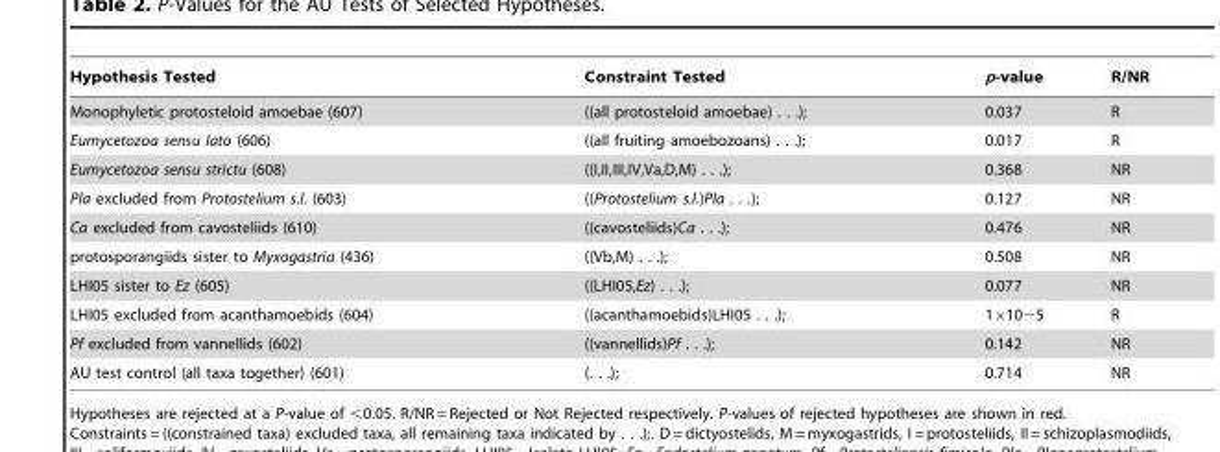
<table><thead><tr><td>Hypothesis Tested</td><td>Constraint Tested</td><td>p-value</td><td>R/NR</td></tr></thead><tbody><tr><td>Monophyletic protosteloid amoebae (607)</td><td>((all protosteloid amoebae) . . .);</td><td>0.037</td><td>R</td></tr><tr><td>Eumycetozoa sensu lato (606)</td><td>((all fruiting amoebozoans) . . .);</td><td>0.017</td><td>R</td></tr><tr><td>Eumycetozoa sensu strictu (608)</td><td>((I,II,III,IV,Va,D,M) . . .);</td><td>0.368</td><td>NR</td></tr><tr><td>Pla excluded from Protostelium s.l. (603)</td><td>((Protostelium s.l.)Pla . . .);</td><td>0.127</td><td>NR</td></tr><tr><td>Ca excluded from cavosteliids (610)</td><td>((cavosteliids)Ca . . .);</td><td>0.476</td><td>NR</td></tr><tr><td>protosporangiids sister to Myxogastria (436)</td><td>((Vb,M) . . .);</td><td>0.508</td><td>NR</td></tr><tr><td>LHI05 sister to Ez (605)</td><td>((LHI05,Ez) . . .);</td><td>0.077</td><td>NR</td></tr><tr><td>LHI05 excluded from acanthamoebids (604)</td><td>((acanthamoebids)LHI05 . . .);</td><td>1×10−5</td><td>R</td></tr><tr><td>Pf excluded from vannellids (602)</td><td>((vannellids)Pf . . .);</td><td>0.142</td><td>NR</td></tr><tr><td>AU test control (all taxa together) (601)</td><td>(. . .);</td><td>0.714</td><td>NR</td></tr></tbody></table>